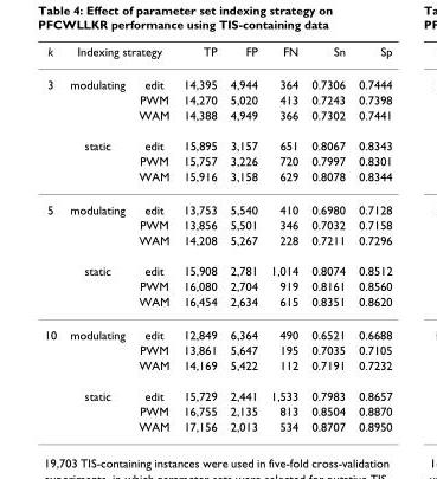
<table><thead><tr><td rowspan="2">k 3</td><td colspan="2">Indexing strategy</td><td rowspan="2">TP 14,395</td><td rowspan="2">FP 4,944</td><td rowspan="2">FN 364</td><td rowspan="2">Sn 0.7306</td><td rowspan="2">Sp 0.7444</td></tr><tr><td>modulating</td><td>edit</td></tr></thead><tbody><tr><td></td><td></td><td>PWM</td><td>14,270</td><td>5,020</td><td>413</td><td>0.7243</td><td>0.7398</td></tr><tr><td></td><td></td><td>WAM</td><td>14,388</td><td>4,949</td><td>366</td><td>0.7302</td><td>0.7441</td></tr><tr><td></td><td>static</td><td>edit</td><td>15,895</td><td>3,157</td><td>651</td><td>0.8067</td><td>0.8343</td></tr><tr><td></td><td></td><td>PWM</td><td>15,757</td><td>3,226</td><td>720</td><td>0.7997</td><td>0.8301</td></tr><tr><td></td><td></td><td>WAM</td><td>15,916</td><td>3,158</td><td>629</td><td>0.8078</td><td>0.8344</td></tr><tr><td rowspan="6">5</td><td>modulating</td><td>edit</td><td>13,753</td><td>5,540</td><td>410</td><td>0.6980</td><td>0.7128</td></tr><tr><td></td><td>PWM</td><td>13,856</td><td>5,501</td><td>346</td><td>0.7032</td><td>0.7158</td></tr><tr><td></td><td>WAM</td><td>14,208</td><td>5,267</td><td>228</td><td>0.7211</td><td>0.7296</td></tr><tr><td>static</td><td>edit</td><td>15,908</td><td>2,781</td><td>1,014</td><td>0.8074</td><td>0.8512</td></tr><tr><td></td><td>PWM</td><td>16,080</td><td>2,704</td><td>919</td><td>0.8161</td><td>0.8560</td></tr><tr><td></td><td>WAM</td><td>16,454</td><td>2,634</td><td>615</td><td>0.8351</td><td>0.8620</td></tr><tr><td rowspan="6">10</td><td>modulating</td><td>edit</td><td>12,849</td><td>6,364</td><td>490</td><td>0.6521</td><td>0.6688</td></tr><tr><td></td><td>PWM</td><td>13,861</td><td>5,647</td><td>195</td><td>0.7035</td><td>0.7105</td></tr><tr><td></td><td>WAM</td><td>14,169</td><td>5,422</td><td>112</td><td>0.7191</td><td>0.7232</td></tr><tr><td>static</td><td>edit</td><td>15,729</td><td>2,441</td><td>1,533</td><td>0.7983</td><td>0.8657</td></tr><tr><td></td><td>PWM</td><td>16,755</td><td>2,135</td><td>813</td><td>0.8504</td><td>0.8870</td></tr><tr><td></td><td>WAM</td><td>17,156</td><td>2,013</td><td>534</td><td>0.8707</td><td>0.8950</td></tr></tbody></table>